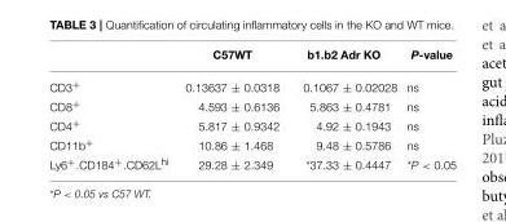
<table><thead><tr><td></td><td>C57WT</td><td>b1.b2 Adr KO</td><td>P-value</td></tr></thead><tbody><tr><td>CD3<sup>+</sup></td><td>0.13637 ± 0.0318</td><td>0.1067 ± 0.02028</td><td>ns</td></tr><tr><td>CD8<sup>+</sup></td><td>4.593 ± 0.6136</td><td>5.863 ± 0.4781</td><td>ns</td></tr><tr><td>CD4<sup>+</sup></td><td>5.817 ± 0.9342</td><td>4.92 ± 0.1943</td><td>ns</td></tr><tr><td>CD11b<sup>+</sup></td><td>10.86 ± 1.468</td><td>9.48 ± 0.5786</td><td>ns</td></tr><tr><td>Ly6<sup>+</sup>.CD184<sup>+</sup>.CD62L<sup>hi</sup></td><td>29.28 ± 2.349</td><td>*37.33 ± 0.4447</td><td>*P &lt; 0.05</td></tr></tbody></table>